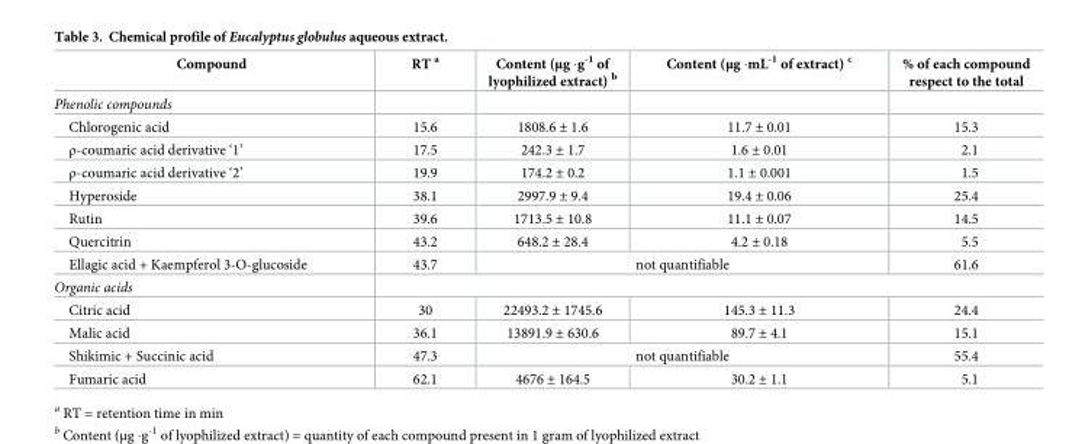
<table><thead><tr><td>Compound</td><td>RT <sup>a</sup></td><td>Content (μg ·g<sup>-1</sup> of lyophilized extract) <sup>b</sup></td><td>Content (μg ·mL<sup>-1</sup> of extract) <sup>c</sup></td><td>% of each compound respect to the total</td></tr></thead><tbody><tr><td colspan="5">Phenolic compounds</td></tr><tr><td>Chlorogenic acid</td><td>15.6</td><td>1808.6 ± 1.6</td><td>11.7 ± 0.01</td><td>15.3</td></tr><tr><td>ρ-coumaric acid derivative ‘1’</td><td>17.5</td><td>242.3 ± 1.7</td><td>1.6 ± 0.01</td><td>2.1</td></tr><tr><td>ρ-coumaric acid derivative ‘2’</td><td>19.9</td><td>174.2 ± 0.2</td><td>1.1 ± 0.001</td><td>1.5</td></tr><tr><td>Hyperoside</td><td>38.1</td><td>2997.9 ± 9.4</td><td>19.4 ± 0.06</td><td>25.4</td></tr><tr><td>Rutin</td><td>39.6</td><td>1713.5 ± 10.8</td><td>11.1 ± 0.07</td><td>14.5</td></tr><tr><td>Quercitrin</td><td>43.2</td><td>648.2 ± 28.4</td><td>4.2 ± 0.18</td><td>5.5</td></tr><tr><td>Ellagic acid + Kaempferol 3-O-glucoside</td><td>43.7</td><td colspan="2">not quantifiable</td><td>61.6</td></tr><tr><td colspan="5">Organic acids</td></tr><tr><td>Citric acid</td><td>30</td><td>22493.2 ± 1745.6</td><td>145.3 ± 11.3</td><td>24.4</td></tr><tr><td>Malic acid</td><td>36.1</td><td>13891.9 ± 630.6</td><td>89.7 ± 4.1</td><td>15.1</td></tr><tr><td>Shikimic + Succinic acid</td><td>47.3</td><td colspan="2">not quantifiable</td><td>55.4</td></tr><tr><td>Fumaric acid</td><td>62.1</td><td>4676 ± 164.5</td><td>30.2 ± 1.1</td><td>5.1</td></tr></tbody></table>